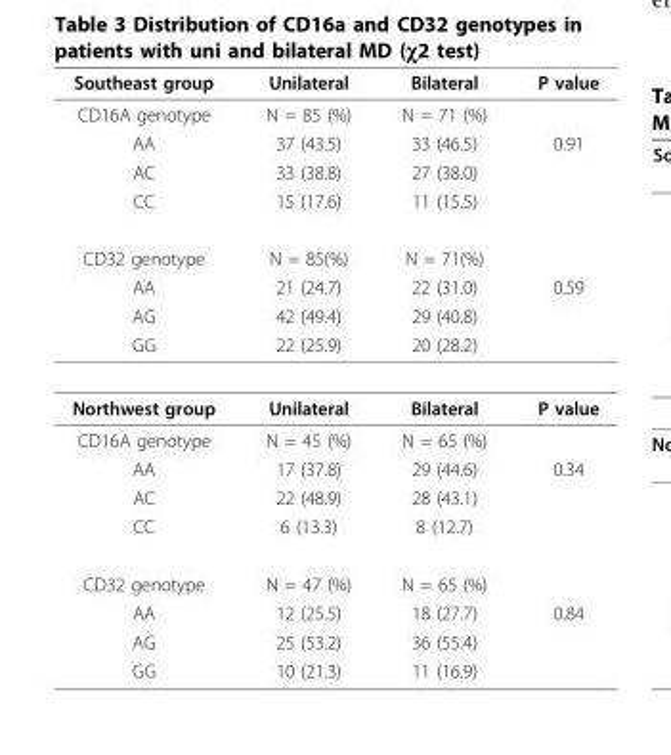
<table><thead><tr><td>Southeast group</td><td>Unilateral</td><td>Bilateral</td><td>P value</td></tr></thead><tbody><tr><td>CD16A genotype</td><td>N = 85 (%)</td><td>N = 71 (%)</td><td></td></tr><tr><td>AA</td><td>37 (43.5)</td><td>33 (46.5)</td><td>0.91</td></tr><tr><td>AC</td><td>33 (38.8)</td><td>27 (38.0)</td><td></td></tr><tr><td>CC</td><td>15 (17.6)</td><td>11 (15.5)</td><td></td></tr><tr><td>CD32 genotype</td><td>N = 85(%)</td><td>N = 71(%)</td><td></td></tr><tr><td>AA</td><td>21 (24.7)</td><td>22 (31.0)</td><td>0.59</td></tr><tr><td>AG</td><td>42 (49.4)</td><td>29 (40.8)</td><td></td></tr><tr><td>GG</td><td>22 (25.9)</td><td>20 (28.2)</td><td></td></tr><tr><td>Northwest group</td><td>Unilateral</td><td>Bilateral</td><td>P value</td></tr><tr><td>CD16A genotype</td><td>N = 45 (%)</td><td>N = 65 (%)</td><td></td></tr><tr><td>AA</td><td>17 (37.8)</td><td>29 (44.6)</td><td>0.34</td></tr><tr><td>AC</td><td>22 (48.9)</td><td>28 (43.1)</td><td></td></tr><tr><td>CC</td><td>6 (13.3)</td><td>8 (12.7)</td><td></td></tr><tr><td>CD32 genotype</td><td>N = 47 (%)</td><td>N = 65 (%)</td><td></td></tr><tr><td>AA</td><td>12 (25.5)</td><td>18 (27.7)</td><td>0.84</td></tr><tr><td>AG</td><td>25 (53.2)</td><td>36 (55.4)</td><td></td></tr><tr><td>GG</td><td>10 (21.3)</td><td>11 (16.9)</td><td></td></tr></tbody></table>